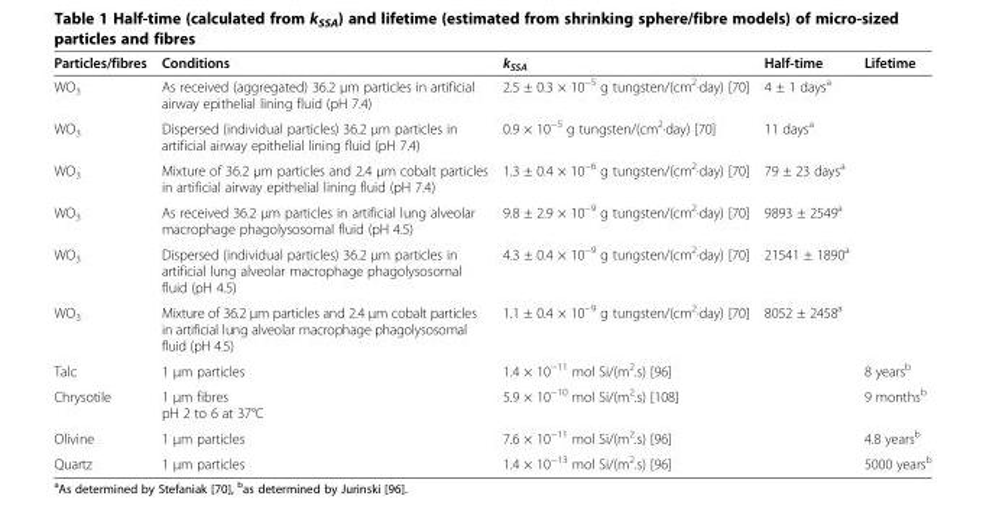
<table><thead><tr><td>Particles/fibres</td><td>Conditions</td><td>k<sub>SSA</sub></td><td>Half-time</td><td>Lifetime</td></tr></thead><tbody><tr><td>WO<sub>3</sub></td><td>As received (aggregated) 36.2 μm particles in artificial airway epithelial lining fluid (pH 7.4)</td><td>2.5 ± 0.3 × 10<sup>−5</sup> g tungsten/(cm<sup>2</sup>·day) [70]</td><td>4 ± 1 days<sup>a</sup></td><td></td></tr><tr><td>WO<sub>3</sub></td><td>Dispersed (individual particles) 36.2 μm particles in artificial airway epithelial lining fluid (pH 7.4)</td><td>0.9 × 10<sup>−5</sup> g tungsten/(cm<sup>2</sup>·day) [70]</td><td>11 days<sup>a</sup></td><td></td></tr><tr><td>WO<sub>3</sub></td><td>Mixture of 36.2 μm particles and 2.4 μm cobalt particles in artificial airway epithelial lining fluid (pH 7.4)</td><td>1.3 ± 0.4 × 10<sup>−6</sup> g tungsten/(cm<sup>2</sup>·day) [70]</td><td>79 ± 23 days<sup>a</sup></td><td></td></tr><tr><td>WO<sub>3</sub></td><td>As received 36.2 μm particles in artificial lung alveolar macrophage phagolysosomal fluid (pH 4.5)</td><td>9.8 ± 2.9 × 10<sup>−9</sup> g tungsten/(cm<sup>2</sup>·day) [70]</td><td>9893 ± 2549<sup>a</sup></td><td></td></tr><tr><td>WO<sub>3</sub></td><td>Dispersed (individual particles) 36.2 μm particles in artificial lung alveolar macrophage phagolysosomal fluid (pH 4.5)</td><td>4.3 ± 0.4 × 10<sup>−9</sup> g tungsten/(cm<sup>2</sup>·day) [70]</td><td>21541 ± 1890<sup>a</sup></td><td></td></tr><tr><td>WO<sub>3</sub></td><td>Mixture of 36.2 μm particles and 2.4 μm cobalt particles in artificial lung alveolar macrophage phagolysosomal fluid (pH 4.5)</td><td>1.1 ± 0.4 × 10<sup>−9</sup> g tungsten/(cm<sup>2</sup>·day) [70]</td><td>8052 ± 2458<sup>a</sup></td><td></td></tr><tr><td>Talc</td><td>1 μm particles</td><td>1.4 × 10<sup>−11</sup> mol Si/(m<sup>2</sup>.s) [96]</td><td></td><td>8 years<sup>b</sup></td></tr><tr><td>Chrysotile</td><td>1 μm fibres pH 2 to 6 at 37°C</td><td>5.9 × 10<sup>−10</sup> mol Si/(m<sup>2</sup>.s) [108]</td><td></td><td>9 months<sup>b</sup></td></tr><tr><td>Olivine</td><td>1 μm particles</td><td>7.6 × 10<sup>−11</sup> mol Si/(m<sup>2</sup>.s) [96]</td><td></td><td>4.8 years<sup>b</sup></td></tr><tr><td>Quartz</td><td>1 μm particles</td><td>1.4 × 10<sup>−13</sup> mol Si/(m<sup>2</sup>.s) [96]</td><td></td><td>5000 years<sup>b</sup></td></tr></tbody></table>